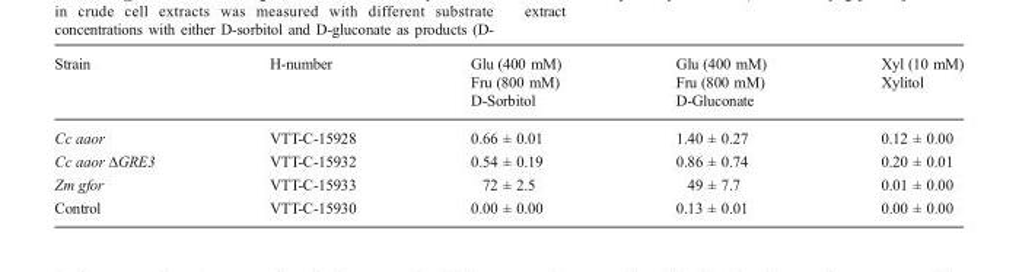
<table><thead><tr><td>Strain</td><td>H-number</td><td>Glu (400 mM) Fru (800 mM) D-Sorbitol</td><td>Glu (400 mM) Fru (800 mM) D-Gluconate</td><td>Xyl (10 mM) Xylitol</td></tr></thead><tbody><tr><td>Cc aaor</td><td>VTT-C-15928</td><td>0.66 ± 0.01</td><td>1.40 ± 0.27</td><td>0.12 ± 0.00</td></tr><tr><td>Cc aaor ΔGRE3</td><td>VTT-C-15932</td><td>0.54 ± 0.19</td><td>0.86 ± 0.74</td><td>0.20 ± 0.01</td></tr><tr><td>Zm gfor</td><td>VTT-C-15933</td><td>72 ± 2.5</td><td>49 ± 7.7</td><td>0.01 ± 0.00</td></tr><tr><td>Control</td><td>VTT-C-15930</td><td>0.00 ± 0.00</td><td>0.13 ± 0.01</td><td>0.00 ± 0.00</td></tr></tbody></table>